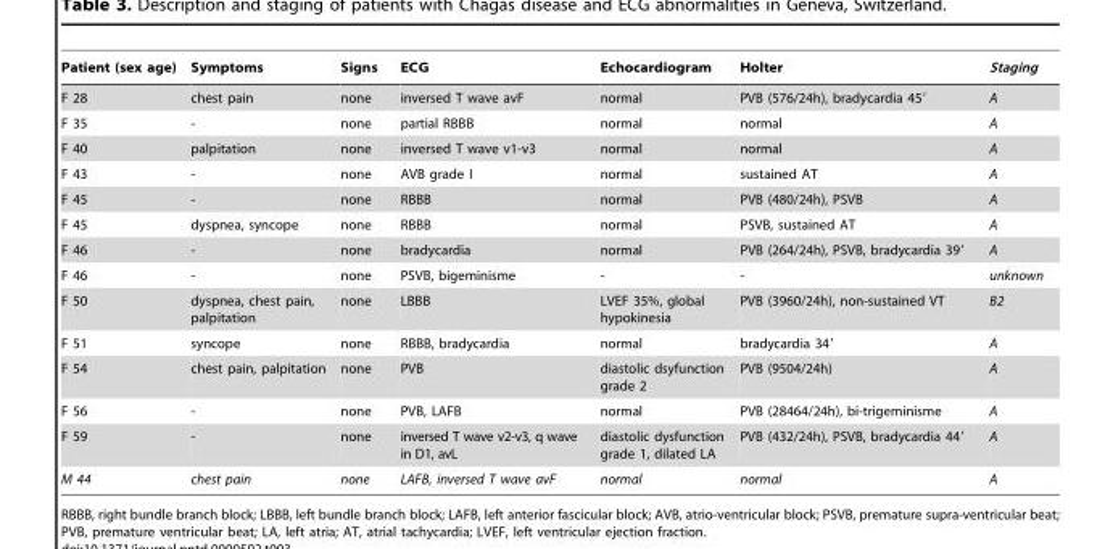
<table><thead><tr><td>Patient (sex age)</td><td>Symptoms</td><td>Signs</td><td>ECG</td><td>Echocardiogram</td><td>Holter</td><td>Staging</td></tr></thead><tbody><tr><td>F 28</td><td>chest pain</td><td>none</td><td>inversed T wave avF</td><td>normal</td><td>PVB (576/24h), bradycardia 45′</td><td>A</td></tr><tr><td>F 35</td><td>-</td><td>none</td><td>partial RBBB</td><td>normal</td><td>normal</td><td>A</td></tr><tr><td>F 40</td><td>palpitation</td><td>none</td><td>inversed T wave v1-v3</td><td>normal</td><td>normal</td><td>A</td></tr><tr><td>F 43</td><td>-</td><td>none</td><td>AVB grade I</td><td>normal</td><td>sustained AT</td><td>A</td></tr><tr><td>F 45</td><td>-</td><td>none</td><td>RBBB</td><td>normal</td><td>PVB (480/24h), PSVB</td><td>A</td></tr><tr><td>F 45</td><td>dyspnea, syncope</td><td>none</td><td>RBBB</td><td>normal</td><td>PSVB, sustained AT</td><td>A</td></tr><tr><td>F 46</td><td>-</td><td>none</td><td>bradycardia</td><td>normal</td><td>PVB (264/24h), PSVB, bradycardia 39′</td><td>A</td></tr><tr><td>F 46</td><td>-</td><td>none</td><td>PSVB, bigeminisme</td><td>-</td><td>-</td><td>unknown</td></tr><tr><td>F 50</td><td>dyspnea, chest pain, palpitation</td><td>none</td><td>LBBB</td><td>LVEF 35%, global hypokinesia</td><td>PVB (3960/24h), non-sustained VT</td><td>B2</td></tr><tr><td>F 51</td><td>syncope</td><td>none</td><td>RBBB, bradycardia</td><td>normal</td><td>bradycardia 34′</td><td>A</td></tr><tr><td>F 54</td><td>chest pain, palpitation</td><td>none</td><td>PVB</td><td>diastolic dsyfunction grade 2</td><td>PVB (9504/24h)</td><td>A</td></tr><tr><td>F 56</td><td>-</td><td>none</td><td>PVB, LAFB</td><td>normal</td><td>PVB (28464/24h), bi-trigeminisme</td><td>A</td></tr><tr><td>F 59</td><td>-</td><td>none</td><td>inversed T wave v2-v3, q wave in D1, avL</td><td>diastolic dysfunction grade 1, dilated LA</td><td>PVB (432/24h), PSVB, bradycardia 44′</td><td>A</td></tr><tr><td>M 44</td><td>chest pain</td><td>none</td><td>LAFB, inversed T wave avF</td><td>normal</td><td>normal</td><td>A</td></tr></tbody></table>